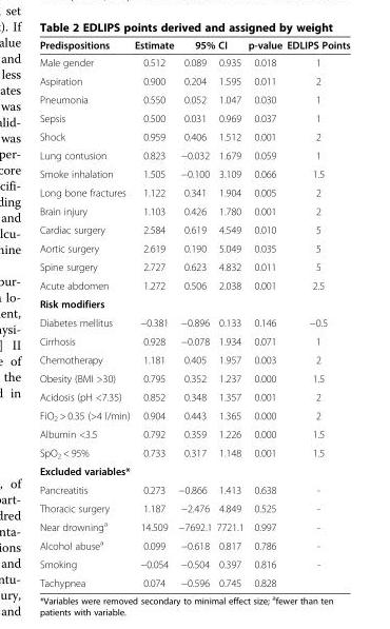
<table><thead><tr><td rowspan="2">Predispositions Male gender</td><td rowspan="2">Estimate 0.512</td><td colspan="2">95% CI</td><td rowspan="2">p-value 0.018</td><td rowspan="2">EDLIPS Points 1</td></tr><tr><td>0.089</td><td>0.935</td></tr></thead><tbody><tr><td>Aspiration</td><td>0.900</td><td>0.204</td><td>1.595</td><td>0.011</td><td>2</td></tr><tr><td>Pneumonia</td><td>0.550</td><td>0.052</td><td>1.047</td><td>0.030</td><td>1</td></tr><tr><td>Sepsis</td><td>0.500</td><td>0.031</td><td>0.969</td><td>0.037</td><td>1</td></tr><tr><td>Shock</td><td>0.959</td><td>0.406</td><td>1.512</td><td>0.001</td><td>2</td></tr><tr><td>Lung contusion</td><td>0.823</td><td>−0.032</td><td>1.679</td><td>0.059</td><td>1</td></tr><tr><td>Smoke inhalation</td><td>1.505</td><td>−0.100</td><td>3.109</td><td>0.066</td><td>1.5</td></tr><tr><td>Long bone fractures</td><td>1.122</td><td>0.341</td><td>1.904</td><td>0.005</td><td>2</td></tr><tr><td>Brain injury</td><td>1.103</td><td>0.426</td><td>1.780</td><td>0.001</td><td>2</td></tr><tr><td>Cardiac surgery</td><td>2.584</td><td>0.619</td><td>4.549</td><td>0.010</td><td>5</td></tr><tr><td>Aortic surgery</td><td>2.619</td><td>0.190</td><td>5.049</td><td>0.035</td><td>5</td></tr><tr><td>Spine surgery</td><td>2.727</td><td>0.623</td><td>4.832</td><td>0.011</td><td>5</td></tr><tr><td>Acute abdomen</td><td>1.272</td><td>0.506</td><td>2.038</td><td>0.001</td><td>2.5</td></tr><tr><td colspan="6">Risk modifiers</td></tr><tr><td>Diabetes mellitus</td><td>−0.381</td><td>−0.896</td><td>0.133</td><td>0.146</td><td>−0.5</td></tr><tr><td>Cirrhosis</td><td>0.928</td><td>−0.078</td><td>1.934</td><td>0.071</td><td>1</td></tr><tr><td>Chemotherapy</td><td>1.181</td><td>0.405</td><td>1.957</td><td>0.003</td><td>2</td></tr><tr><td>Obesity (BMI &gt;30)</td><td>0.795</td><td>0.352</td><td>1.237</td><td>0.000</td><td>1.5</td></tr><tr><td>Acidosis (pH &lt;7.35)</td><td>0.852</td><td>0.348</td><td>1.357</td><td>0.001</td><td>2</td></tr><tr><td>FiO<sub>2</sub> &gt; 0.35 (&gt;4 l/min)</td><td>0.904</td><td>0.443</td><td>1.365</td><td>0.000</td><td>2</td></tr><tr><td>Albumin &lt;3.5</td><td>0.792</td><td>0.359</td><td>1.226</td><td>0.000</td><td>1.5</td></tr><tr><td>SpO<sub>2</sub> &lt; 95%</td><td>0.733</td><td>0.317</td><td>1.148</td><td>0.001</td><td>1.5</td></tr><tr><td colspan="6">Excluded variables*</td></tr><tr><td>Pancreatitis</td><td>0.273</td><td>−0.866</td><td>1.413</td><td>0.638</td><td>-</td></tr><tr><td>Thoracic surgery</td><td>1.187</td><td>−2.476</td><td>4.849</td><td>0.525</td><td>-</td></tr><tr><td>Near drowning<sup>a</sup></td><td>14.509</td><td>−7692.1</td><td>7721.1</td><td>0.997</td><td>-</td></tr><tr><td>Alcohol abuse<sup>a</sup></td><td>0.099</td><td>−0.618</td><td>0.817</td><td>0.786</td><td>-</td></tr><tr><td>Smoking</td><td>−0.054</td><td>−0.504</td><td>0.397</td><td>0.816</td><td>-</td></tr><tr><td>Tachypnea</td><td>0.074</td><td>−0.596</td><td>0.745</td><td>0.828</td><td></td></tr></tbody></table>